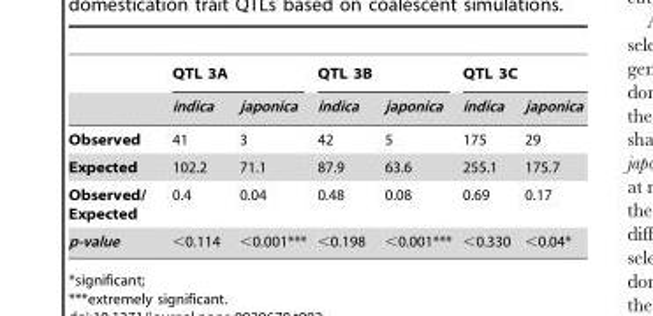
<table><thead><tr><td rowspan="2"></td><td colspan="2">QTL 3A</td><td colspan="2">QTL 3B</td><td colspan="2">QTL 3C</td></tr><tr><td>indica</td><td>japonica</td><td>indica</td><td>japonica</td><td>indica</td><td>japonica</td></tr></thead><tbody><tr><td>Observed</td><td>41</td><td>3</td><td>42</td><td>5</td><td>175</td><td>29</td></tr><tr><td>Expected</td><td>102.2</td><td>71.1</td><td>87.9</td><td>63.6</td><td>255.1</td><td>175.7</td></tr><tr><td>Observed/ Expected</td><td>0.4</td><td>0.04</td><td>0.48</td><td>0.08</td><td>0.69</td><td>0.17</td></tr><tr><td>p-value</td><td>&lt;0.114</td><td>&lt;0.001***</td><td>&lt;0.198</td><td>&lt;0.001***</td><td>&lt;0.330</td><td>&lt;0.04*</td></tr></tbody></table>